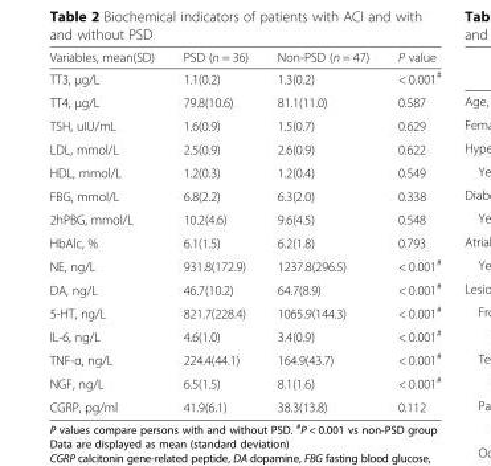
<table><thead><tr><td>Variables, mean(SD)</td><td>PSD (n = 36)</td><td>Non-PSD (n = 47)</td><td>P value</td></tr></thead><tbody><tr><td>TT3, μg/L</td><td>1.1(0.2)</td><td>1.3(0.2)</td><td>&lt; 0.001<sup>#</sup></td></tr><tr><td>TT4, μg/L</td><td>79.8(10.6)</td><td>81.1(11.0)</td><td>0.587</td></tr><tr><td>TSH, uIU/mL</td><td>1.6(0.9)</td><td>1.5(0.7)</td><td>0.629</td></tr><tr><td>LDL, mmol/L</td><td>2.5(0.9)</td><td>2.6(0.9)</td><td>0.622</td></tr><tr><td>HDL, mmol/L</td><td>1.2(0.3)</td><td>1.2(0.4)</td><td>0.549</td></tr><tr><td>FBG, mmol/L</td><td>6.8(2.2)</td><td>6.3(2.0)</td><td>0.338</td></tr><tr><td>2hPBG, mmol/L</td><td>10.2(4.6)</td><td>9.6(4.5)</td><td>0.548</td></tr><tr><td>HbAlc, %</td><td>6.1(1.5)</td><td>6.2(1.8)</td><td>0.793</td></tr><tr><td>NE, ng/L</td><td>931.8(172.9)</td><td>1237.8(296.5)</td><td>&lt; 0.001<sup>#</sup></td></tr><tr><td>DA, ng/L</td><td>46.7(10.2)</td><td>64.7(8.9)</td><td>&lt; 0.001<sup>#</sup></td></tr><tr><td>5-HT, ng/L</td><td>821.7(228.4)</td><td>1065.9(144.3)</td><td>&lt; 0.001<sup>#</sup></td></tr><tr><td>IL-6, ng/L</td><td>4.6(1.0)</td><td>3.4(0.9)</td><td>&lt; 0.001<sup>#</sup></td></tr><tr><td>TNF-α, ng/L</td><td>224.4(44.1)</td><td>164.9(43.7)</td><td>&lt; 0.001<sup>#</sup></td></tr><tr><td>NGF, ng/L</td><td>6.5(1.5)</td><td>8.1(1.6)</td><td>&lt; 0.001<sup>#</sup></td></tr><tr><td>CGRP, pg/ml</td><td>41.9(6.1)</td><td>38.3(13.8)</td><td>0.112</td></tr></tbody></table>